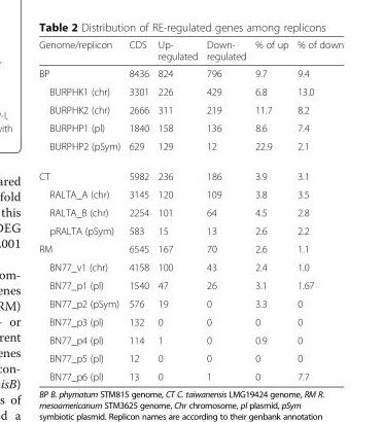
<table><thead><tr><td>Genome/replicon</td><td>CDS</td><td>Up- regulated</td><td>Down- regulated</td><td>% of up</td><td>% of down</td></tr></thead><tbody><tr><td>BP</td><td>8436</td><td>824</td><td>796</td><td>9.7</td><td>9.4</td></tr><tr><td>BURPHK1 (chr)</td><td>3301</td><td>226</td><td>429</td><td>6.8</td><td>13.0</td></tr><tr><td>BURPHK2 (chr)</td><td>2666</td><td>311</td><td>219</td><td>11.7</td><td>8.2</td></tr><tr><td>BURPHP1 (pl)</td><td>1840</td><td>158</td><td>136</td><td>8.6</td><td>7.4</td></tr><tr><td>BURPHP2 (pSym)</td><td>629</td><td>129</td><td>12</td><td>22.9</td><td>2.1</td></tr><tr><td>CT</td><td>5982</td><td>236</td><td>186</td><td>3.9</td><td>3.1</td></tr><tr><td>RALTA_A (chr)</td><td>3145</td><td>120</td><td>109</td><td>3.8</td><td>3.5</td></tr><tr><td>RALTA_B (chr)</td><td>2254</td><td>101</td><td>64</td><td>4.5</td><td>2.8</td></tr><tr><td>pRALTA (pSym)</td><td>583</td><td>15</td><td>13</td><td>2.6</td><td>2.2</td></tr><tr><td>RM</td><td>6545</td><td>167</td><td>70</td><td>2.6</td><td>1.1</td></tr><tr><td>BN77_v1 (chr)</td><td>4158</td><td>100</td><td>43</td><td>2.4</td><td>1.0</td></tr><tr><td>BN77_p1 (pl)</td><td>1540</td><td>47</td><td>26</td><td>3.1</td><td>1.67</td></tr><tr><td>BN77_p2 (pSym)</td><td>576</td><td>19</td><td>0</td><td>3.3</td><td>0</td></tr><tr><td>BN77_p3 (pl)</td><td>132</td><td>0</td><td>0</td><td>0</td><td>0</td></tr><tr><td>BN77_p4 (pl)</td><td>114</td><td>1</td><td>0</td><td>0.9</td><td>0</td></tr><tr><td>BN77_p5 (pl)</td><td>12</td><td>0</td><td>0</td><td>0</td><td>0</td></tr><tr><td>BN77_p6 (pl)</td><td>13</td><td>0</td><td>1</td><td>0</td><td>7.7</td></tr></tbody></table>